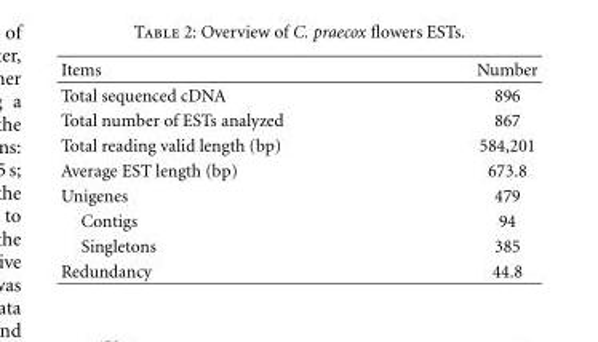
<table><thead><tr><td>Items</td><td>Number</td></tr></thead><tbody><tr><td>Total sequenced cDNA</td><td>896</td></tr><tr><td>Total number of ESTs analyzed</td><td>867</td></tr><tr><td>Total reading valid length (bp)</td><td>584,201</td></tr><tr><td>Average EST length (bp)</td><td>673.8</td></tr><tr><td>Unigenes</td><td>479</td></tr><tr><td>Contigs</td><td>94</td></tr><tr><td>Singletons</td><td>385</td></tr><tr><td>Redundancy</td><td>44.8</td></tr></tbody></table>